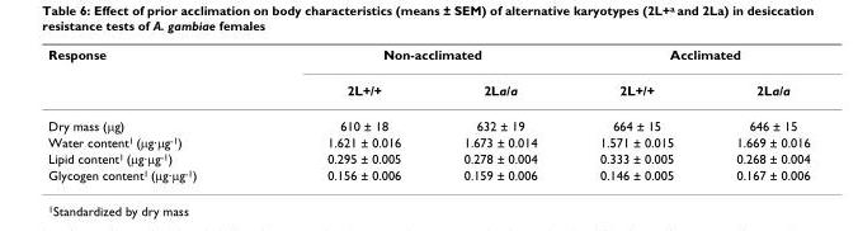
<table><thead><tr><td rowspan="2">Response</td><td colspan="2">Non-acclimated</td><td colspan="2">Acclimated</td></tr><tr><td>2L+/+</td><td>2La/a</td><td>2L+/+</td><td>2La/a</td></tr></thead><tbody><tr><td>Dry mass (μg)</td><td>610 ± 18</td><td>632 ± 19</td><td>664 ± 15</td><td>646 ± 15</td></tr><tr><td>Water content<sup>1</sup> (μg·μg<sup>-1</sup>)</td><td>1.621 ± 0.016</td><td>1.673 ± 0.014</td><td>1.571 ± 0.015</td><td>1.669 ± 0.016</td></tr><tr><td>Lipid content<sup>1</sup> (μg·μg<sup>-1</sup>)</td><td>0.295 ± 0.005</td><td>0.278 ± 0.004</td><td>0.333 ± 0.005</td><td>0.268 ± 0.004</td></tr><tr><td>Glycogen content<sup>1</sup> (μg·μg<sup>-1</sup>)</td><td>0.156 ± 0.006</td><td>0.159 ± 0.006</td><td>0.146 ± 0.005</td><td>0.167 ± 0.006</td></tr></tbody></table>